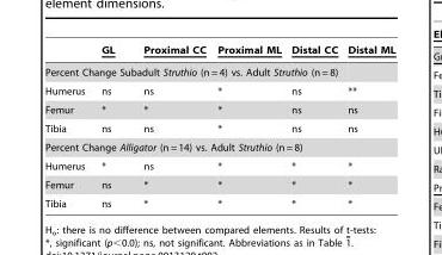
<table><thead><tr><td></td><td>GL</td><td>Proximal CC</td><td>Proximal ML</td><td>Distal CC</td><td>Distal ML</td></tr></thead><tbody><tr><td colspan="6">Percent Change Subadult Struthio (n = 4) vs. Adult Struthio (n = 8)</td></tr><tr><td>Humerus</td><td>ns</td><td>ns</td><td>*</td><td>ns</td><td>**</td></tr><tr><td>Femur</td><td>*</td><td>*</td><td>*</td><td>ns</td><td>ns</td></tr><tr><td>Tibia</td><td>ns</td><td>ns</td><td>*</td><td>ns</td><td>ns</td></tr><tr><td colspan="6">Percent Change Alligator (n = 14) vs. Adult Struthio (n = 8)</td></tr><tr><td>Humerus</td><td>*</td><td>ns</td><td>*</td><td>*</td><td>*</td></tr><tr><td>Femur</td><td>ns</td><td>*</td><td>*</td><td>*</td><td>*</td></tr><tr><td>Tibia</td><td>ns</td><td>*</td><td>*</td><td>*</td><td>*</td></tr></tbody></table>